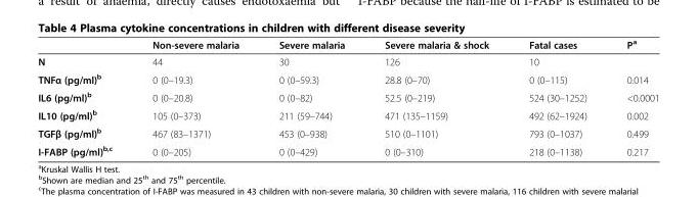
<table><thead><tr><td></td><td>Non-severe malaria</td><td>Severe malaria</td><td>Severe malaria &amp; shock</td><td>Fatal cases</td><td>P<sup>a</sup></td></tr></thead><tbody><tr><td>N</td><td>44</td><td>30</td><td>126</td><td>10</td><td></td></tr><tr><td>TNFα (pg/ml)<sup>b</sup></td><td>0 (0–19.3)</td><td>0 (0–59.3)</td><td>28.8 (0–70)</td><td>0 (0–115)</td><td>0.014</td></tr><tr><td>IL6 (pg/ml)<sup>b</sup></td><td>0 (0–20.8)</td><td>0 (0–82)</td><td>52.5 (0–219)</td><td>524 (30–1252)</td><td>&lt;0.0001</td></tr><tr><td>IL10 (pg/ml)<sup>b</sup></td><td>105 (0–373)</td><td>211 (59–744)</td><td>471 (135–1159)</td><td>492 (62–1924)</td><td>0.002</td></tr><tr><td>TGFβ (pg/ml)<sup>b</sup></td><td>467 (83–1371)</td><td>453 (0–938)</td><td>510 (0–1101)</td><td>793 (0–1037)</td><td>0.499</td></tr><tr><td>I-FABP (pg/ml)<sup>b,c</sup></td><td>0 (0–205)</td><td>0 (0–429)</td><td>0 (0–310)</td><td>218 (0–1138)</td><td>0.217</td></tr></tbody></table>